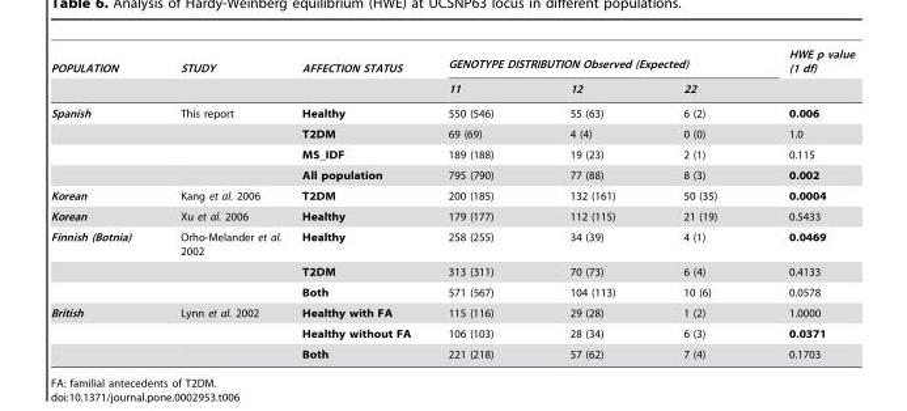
<table><thead><tr><td rowspan="2">POPULATION</td><td rowspan="2">STUDY</td><td rowspan="2">AFFECTION STATUS</td><td colspan="3">GENOTYPE DISTRIBUTION Observed (Expected)</td><td rowspan="2">HWE p value (1 df)</td></tr><tr><td>11</td><td>12</td><td>22</td></tr></thead><tbody><tr><td rowspan="4">Spanish</td><td>This report</td><td>Healthy</td><td>550 (546)</td><td>55 (63)</td><td>6 (2)</td><td>0.006</td></tr><tr><td></td><td>T2DM</td><td>69 (69)</td><td>4 (4)</td><td>0 (0)</td><td>1.0</td></tr><tr><td></td><td>MS_IDF</td><td>189 (188)</td><td>19 (23)</td><td>2 (1)</td><td>0.115</td></tr><tr><td></td><td>All population</td><td>795 (790)</td><td>77 (88)</td><td>8 (3)</td><td>0.002</td></tr><tr><td>Korean</td><td>Kang et al. 2006</td><td>T2DM</td><td>200 (185)</td><td>132 (161)</td><td>50 (35)</td><td>0.0004</td></tr><tr><td>Korean</td><td>Xu et al. 2006</td><td>Healthy</td><td>179 (177)</td><td>112 (115)</td><td>21 (19)</td><td>0.5433</td></tr><tr><td rowspan="3">Finnish (Botnia)</td><td>Orho-Melander et al. 2002</td><td>Healthy</td><td>258 (255)</td><td>34 (39)</td><td>4 (1)</td><td>0.0469</td></tr><tr><td></td><td>T2DM</td><td>313 (311)</td><td>70 (73)</td><td>6 (4)</td><td>0.4133</td></tr><tr><td></td><td>Both</td><td>571 (567)</td><td>104 (113)</td><td>10 (6)</td><td>0.0578</td></tr><tr><td rowspan="3">British</td><td>Lynn et al. 2002</td><td>Healthy with FA</td><td>115 (116)</td><td>29 (28)</td><td>1 (2)</td><td>1.0000</td></tr><tr><td></td><td>Healthy without FA</td><td>106 (103)</td><td>28 (34)</td><td>6 (3)</td><td>0.0371</td></tr><tr><td></td><td>Both</td><td>221 (218)</td><td>57 (62)</td><td>7 (4)</td><td>0.1703</td></tr></tbody></table>